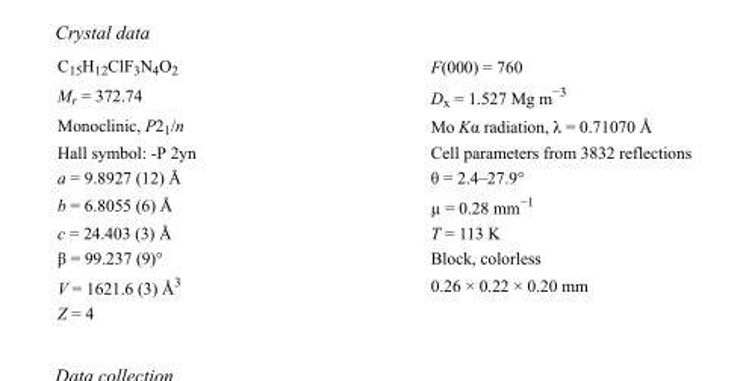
<table><tbody><tr><td>C<sub>15</sub>H<sub>12</sub>ClF<sub>3</sub>N<sub>4</sub>O<sub>2</sub></td><td>F(000) = 760</td></tr><tr><td>M<sub>r</sub> = 372.74</td><td>D<sub>x</sub> = 1.527 Mg m<sup>−3</sup></td></tr><tr><td>Monoclinic, P2<sub>1</sub>/n</td><td>Mo Kα radiation, λ = 0.71070 Å</td></tr><tr><td>Hall symbol: -P 2yn</td><td>Cell parameters from 3832 reflections</td></tr><tr><td>a = 9.8927 (12) Å</td><td>θ = 2.4–27.9°</td></tr><tr><td>b = 6.8055 (6) Å</td><td>µ = 0.28 mm<sup>−1</sup></td></tr><tr><td>c = 24.403 (3) Å</td><td>T = 113 K</td></tr><tr><td>β = 99.237 (9)°</td><td>Block, colorless</td></tr><tr><td>V = 1621.6 (3) Å<sup>3</sup></td><td>0.26 × 0.22 × 0.20 mm</td></tr><tr><td>Z = 4</td><td></td></tr></tbody></table>